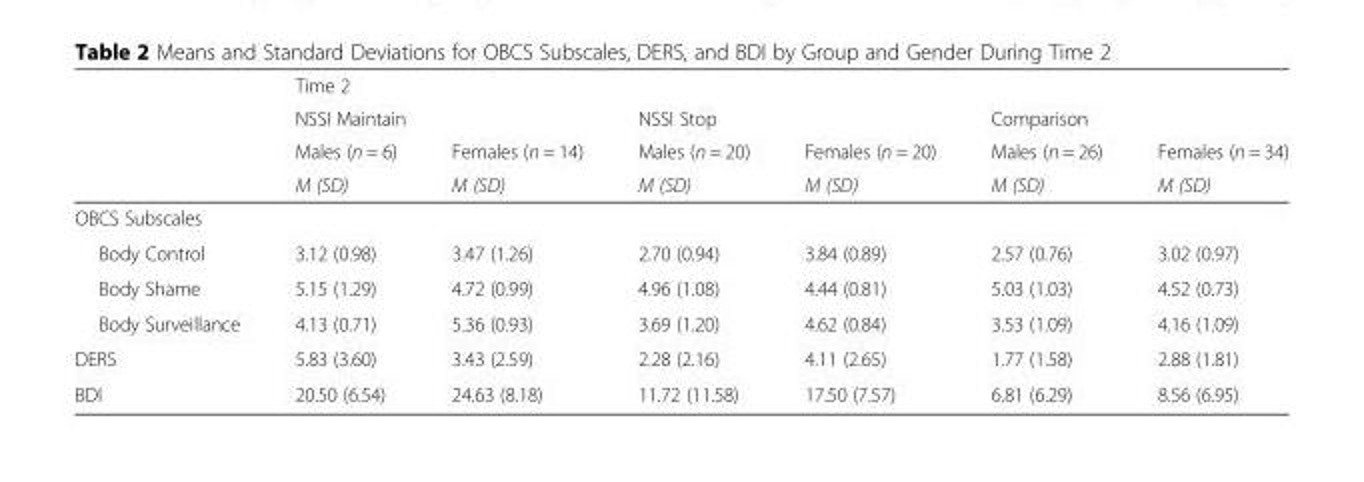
<table><thead><tr><td rowspan="4"></td><td colspan="6">Time 2</td></tr><tr><td colspan="2">NSSI Maintain</td><td colspan="2">NSSI Stop</td><td colspan="2">Comparison</td></tr><tr><td rowspan="2">Males (n = 6) M (SD)</td><td rowspan="2">Females (n = 14) M (SD)</td><td rowspan="2">Males (n = 20) M (SD)</td><td rowspan="2">Females (n = 20) M (SD)</td><td rowspan="2">Males (n = 26) M (SD)</td><td rowspan="2">Females (n = 34) M (SD)</td></tr><tr></tr></thead><tbody><tr><td colspan="7">OBCS Subscales</td></tr><tr><td>Body Control</td><td>3.12 (0.98)</td><td>3.47 (1.26)</td><td>2.70 (0.94)</td><td>3.84 (0.89)</td><td>2.57 (0.76)</td><td>3.02 (0.97)</td></tr><tr><td>Body Shame</td><td>5.15 (1.29)</td><td>4.72 (0.99)</td><td>4.96 (1.08)</td><td>4.44 (0.81)</td><td>5.03 (1.03)</td><td>4.52 (0.73)</td></tr><tr><td>Body Surveillance</td><td>4.13 (0.71)</td><td>5.36 (0.93)</td><td>3.69 (1.20)</td><td>4.62 (0.84)</td><td>3.53 (1.09)</td><td>4.16 (1.09)</td></tr><tr><td>DERS</td><td>5.83 (3.60)</td><td>3.43 (2.59)</td><td>2.28 (2.16)</td><td>4.11 (2.65)</td><td>1.77 (1.58)</td><td>2.88 (1.81)</td></tr><tr><td>BDI</td><td>20.50 (6.54)</td><td>24.63 (8.18)</td><td>11.72 (11.58)</td><td>17.50 (7.57)</td><td>6.81 (6.29)</td><td>8.56 (6.95)</td></tr></tbody></table>